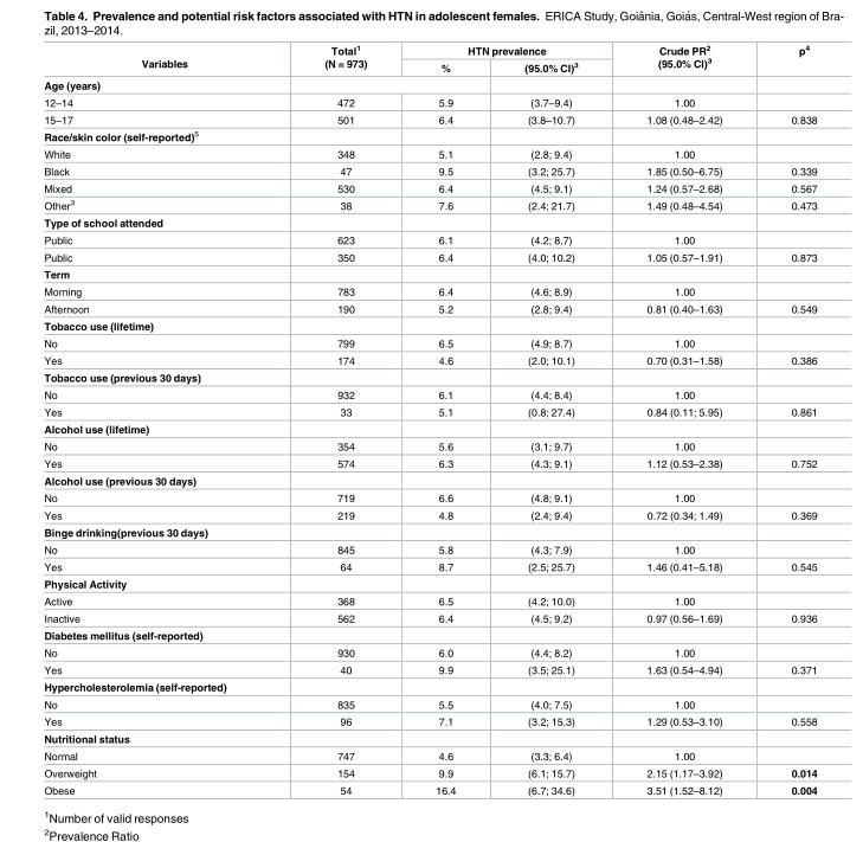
<table><thead><tr><td rowspan="2">Variables</td><td rowspan="2">Total<sup>1</sup> (N = 973)</td><td colspan="2">HTN prevalence</td><td rowspan="2">Crude PR<sup>2</sup> (95.0% CI)<sup>3</sup></td><td rowspan="2">p<sup>4</sup></td></tr><tr><td>%</td><td>(95.0% CI)<sup>3</sup></td></tr></thead><tbody><tr><td colspan="6">Age (years)</td></tr><tr><td>12–14</td><td>472</td><td>5.9</td><td>(3.7–9.4)</td><td>1.00</td><td></td></tr><tr><td>15–17</td><td>501</td><td>6.4</td><td>(3.8–10.7)</td><td>1.08 (0.48–2.42)</td><td>0.838</td></tr><tr><td colspan="6">Race/skin color (self-reported)<sup>5</sup></td></tr><tr><td>White</td><td>348</td><td>5.1</td><td>(2.8; 9.4)</td><td>1.00</td><td></td></tr><tr><td>Black</td><td>47</td><td>9.5</td><td>(3.2; 25.7)</td><td>1.85 (0.50–6.75)</td><td>0.339</td></tr><tr><td>Mixed</td><td>530</td><td>6.4</td><td>(4.5; 9.1)</td><td>1.24 (0.57–2.68)</td><td>0.567</td></tr><tr><td>Other<sup>3</sup></td><td>38</td><td>7.6</td><td>(2.4; 21.7)</td><td>1.49 (0.48–4.54)</td><td>0.473</td></tr><tr><td colspan="6">Type of school attended</td></tr><tr><td>Public</td><td>623</td><td>6.1</td><td>(4.2; 8.7)</td><td>1.00</td><td></td></tr><tr><td>Public</td><td>350</td><td>6.4</td><td>(4.0; 10.2)</td><td>1.05 (0.57–1.91)</td><td>0.873</td></tr><tr><td colspan="6">Term</td></tr><tr><td>Morning</td><td>783</td><td>6.4</td><td>(4.6; 8.9)</td><td>1.00</td><td></td></tr><tr><td>Afternoon</td><td>190</td><td>5.2</td><td>(2.8; 9.4)</td><td>0.81 (0.40–1.63)</td><td>0.549</td></tr><tr><td colspan="6">Tobacco use (lifetime)</td></tr><tr><td>No</td><td>799</td><td>6.5</td><td>(4.9; 8.7)</td><td>1.00</td><td></td></tr><tr><td>Yes</td><td>174</td><td>4.6</td><td>(2.0; 10.1)</td><td>0.70 (0.31–1.58)</td><td>0.386</td></tr><tr><td colspan="6">Tobacco use (previous 30 days)</td></tr><tr><td>No</td><td>932</td><td>6.1</td><td>(4.4; 8.4)</td><td>1.00</td><td></td></tr><tr><td>Yes</td><td>33</td><td>5.1</td><td>(0.8; 27.4)</td><td>0.84 (0.11; 5.95)</td><td>0.861</td></tr><tr><td colspan="6">Alcohol use (lifetime)</td></tr><tr><td>No</td><td>354</td><td>5.6</td><td>(3.1; 9.7)</td><td>1.00</td><td></td></tr><tr><td>Yes</td><td>574</td><td>6.3</td><td>(4.3; 9.1)</td><td>1.12 (0.53–2.38)</td><td>0.752</td></tr><tr><td colspan="6">Alcohol use (previous 30 days)</td></tr><tr><td>No</td><td>719</td><td>6.6</td><td>(4.8; 9.1)</td><td>1.00</td><td></td></tr><tr><td>Yes</td><td>219</td><td>4.8</td><td>(2.4; 9.4)</td><td>0.72 (0.34; 1.49)</td><td>0.369</td></tr><tr><td colspan="6">Binge drinking(previous 30 days)</td></tr><tr><td>No</td><td>845</td><td>5.8</td><td>(4.3; 7.9)</td><td>1.00</td><td></td></tr><tr><td>Yes</td><td>64</td><td>8.7</td><td>(2.5; 25.7)</td><td>1.46 (0.41–5.18)</td><td>0.545</td></tr><tr><td colspan="6">Physical Activity</td></tr><tr><td>Active</td><td>368</td><td>6.5</td><td>(4.2; 10.0)</td><td>1.00</td><td></td></tr><tr><td>Inactive</td><td>562</td><td>6.4</td><td>(4.5; 9.2)</td><td>0.97 (0.56–1.69)</td><td>0.936</td></tr><tr><td colspan="6">Diabetes mellitus (self-reported)</td></tr><tr><td>No</td><td>930</td><td>6.0</td><td>(4.4; 8.2)</td><td>1.00</td><td></td></tr><tr><td>Yes</td><td>40</td><td>9.9</td><td>(3.5; 25.1)</td><td>1.63 (0.54–4.94)</td><td>0.371</td></tr><tr><td colspan="6">Hypercholesterolemia (self-reported)</td></tr><tr><td>No</td><td>835</td><td>5.5</td><td>(4.0; 7.5)</td><td>1.00</td><td></td></tr><tr><td>Yes</td><td>96</td><td>7.1</td><td>(3.2; 15.3)</td><td>1.29 (0.53–3.10)</td><td>0.558</td></tr><tr><td colspan="6">Nutritional status</td></tr><tr><td>Normal</td><td>747</td><td>4.6</td><td>(3.3; 6.4)</td><td>1.00</td><td></td></tr><tr><td>Overweight</td><td>154</td><td>9.9</td><td>(6.1; 15.7)</td><td>2.15 (1.17–3.92)</td><td>0.014</td></tr><tr><td>Obese</td><td>54</td><td>16.4</td><td>(6.7; 34.6)</td><td>3.51 (1.52–8.12)</td><td>0.004</td></tr></tbody></table>